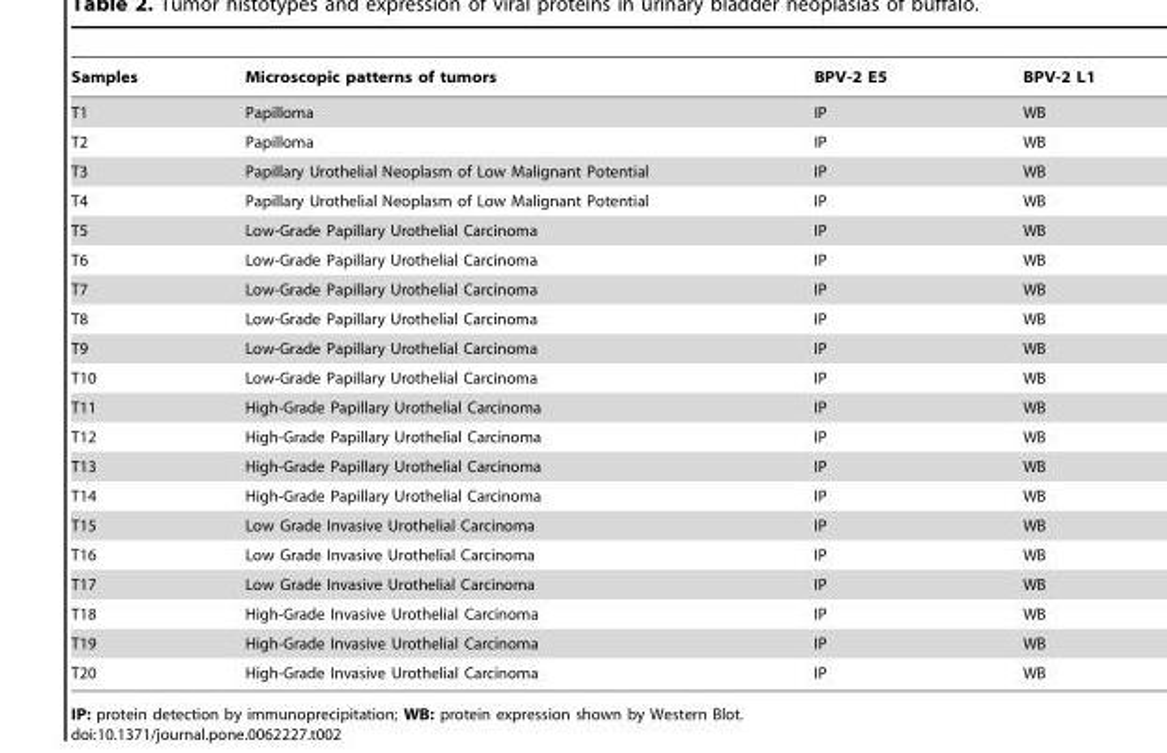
<table><thead><tr><td>Samples</td><td>Microscopic patterns of tumors</td><td>BPV-2 E5</td><td>BPV-2 L1</td></tr></thead><tbody><tr><td>T1</td><td>Papilloma</td><td>IP</td><td>WB</td></tr><tr><td>T2</td><td>Papilloma</td><td>IP</td><td>WB</td></tr><tr><td>T3</td><td>Papillary Urothelial Neoplasm of Low Malignant Potential</td><td>IP</td><td>WB</td></tr><tr><td>T4</td><td>Papillary Urothelial Neoplasm of Low Malignant Potential</td><td>IP</td><td>WB</td></tr><tr><td>T5</td><td>Low-Grade Papillary Urothelial Carcinoma</td><td>IP</td><td>WB</td></tr><tr><td>T6</td><td>Low-Grade Papillary Urothelial Carcinoma</td><td>IP</td><td>WB</td></tr><tr><td>T7</td><td>Low-Grade Papillary Urothelial Carcinoma</td><td>IP</td><td>WB</td></tr><tr><td>T8</td><td>Low-Grade Papillary Urothelial Carcinoma</td><td>IP</td><td>WB</td></tr><tr><td>T9</td><td>Low-Grade Papillary Urothelial Carcinoma</td><td>IP</td><td>WB</td></tr><tr><td>T10</td><td>Low-Grade Papillary Urothelial Carcinoma</td><td>IP</td><td>WB</td></tr><tr><td>T11</td><td>High-Grade Papillary Urothelial Carcinoma</td><td>IP</td><td>WB</td></tr><tr><td>T12</td><td>High-Grade Papillary Urothelial Carcinoma</td><td>IP</td><td>WB</td></tr><tr><td>T13</td><td>High-Grade Papillary Urothelial Carcinoma</td><td>IP</td><td>WB</td></tr><tr><td>T14</td><td>High-Grade Papillary Urothelial Carcinoma</td><td>IP</td><td>WB</td></tr><tr><td>T15</td><td>Low Grade Invasive Urothelial Carcinoma</td><td>IP</td><td>WB</td></tr><tr><td>T16</td><td>Low Grade Invasive Urothelial Carcinoma</td><td>IP</td><td>WB</td></tr><tr><td>T17</td><td>Low Grade Invasive Urothelial Carcinoma</td><td>IP</td><td>WB</td></tr><tr><td>T18</td><td>High-Grade Invasive Urothelial Carcinoma</td><td>IP</td><td>WB</td></tr><tr><td>T19</td><td>High-Grade Invasive Urothelial Carcinoma</td><td>IP</td><td>WB</td></tr><tr><td>T20</td><td>High-Grade Invasive Urothelial Carcinoma</td><td>IP</td><td>WB</td></tr></tbody></table>